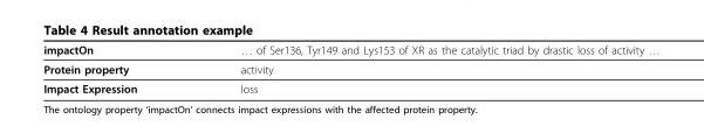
<table><thead><tr><td>impactOn</td><td>… of Ser136, Tyr149 and Lys153 of XR as the catalytic triad by drastic loss of activity …</td></tr></thead><tbody><tr><td>Protein property</td><td>activity</td></tr><tr><td>Impact Expression</td><td>loss</td></tr></tbody></table>